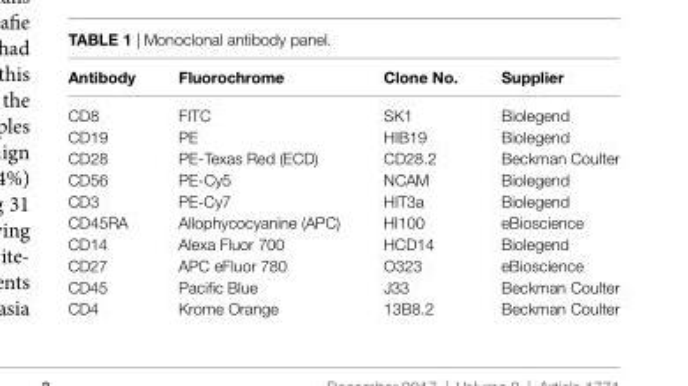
<table><thead><tr><td>antibody</td><td>Fluorochrome</td><td>clone no.</td><td>supplier</td></tr></thead><tbody><tr><td>CD8</td><td>FITC</td><td>SK1</td><td>Biolegend</td></tr><tr><td>CD19</td><td>PE</td><td>HIB19</td><td>Biolegend</td></tr><tr><td>CD28</td><td>PE-Texas Red (ECD)</td><td>CD28.2</td><td>Beckman Coulter</td></tr><tr><td>CD56</td><td>PE-Cy5</td><td>NCAM</td><td>Biolegend</td></tr><tr><td>CD3</td><td>PE-Cy7</td><td>HIT3a</td><td>Biolegend</td></tr><tr><td>CD45RA</td><td>Allophycocyanine (APC)</td><td>HI100</td><td>eBioscience</td></tr><tr><td>CD14</td><td>Alexa Fluor 700</td><td>HCD14</td><td>Biolegend</td></tr><tr><td>CD27</td><td>APC eFluor 780</td><td>O323</td><td>eBioscience</td></tr><tr><td>CD45</td><td>Pacific Blue</td><td>J33</td><td>Beckman Coulter</td></tr><tr><td>CD4</td><td>Krome Orange</td><td>13B8.2</td><td>Beckman Coulter</td></tr></tbody></table>